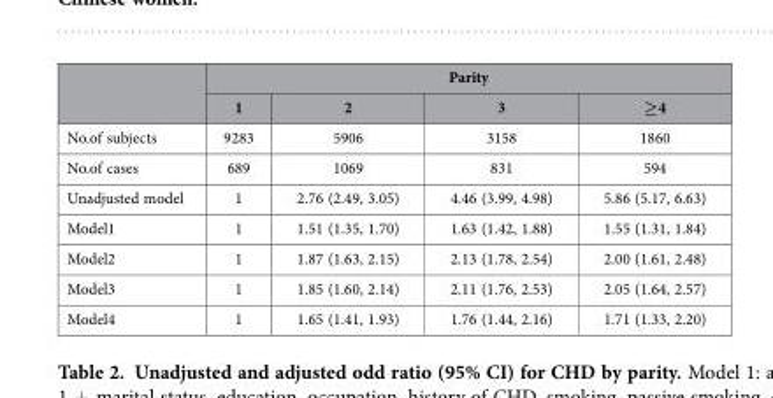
<table><thead><tr><td rowspan="2"></td><td colspan="4">Parity</td></tr><tr><td>1</td><td>2</td><td>3</td><td>≥ 4</td></tr></thead><tbody><tr><td>No.of subjects</td><td>9283</td><td>5906</td><td>3158</td><td>1860</td></tr><tr><td>No.of cases</td><td>689</td><td>1069</td><td>831</td><td>594</td></tr><tr><td>Unadjusted model</td><td>1</td><td>2.76 (2.49, 3.05)</td><td>4.46 (3.99, 4.98)</td><td>5.86 (5.17, 6.63)</td></tr><tr><td>Model1</td><td>1</td><td>1.51 (1.35, 1.70)</td><td>1.63 (1.42, 1.88)</td><td>1.55 (1.31, 1.84)</td></tr><tr><td>Model2</td><td>1</td><td>1.87 (1.63, 2.15)</td><td>2.13 (1.78, 2.54)</td><td>2.00 (1.61, 2.48)</td></tr><tr><td>Model3</td><td>1</td><td>1.85 (1.60, 2.14)</td><td>2.11 (1.76, 2.53)</td><td>2.05 (1.64, 2.57)</td></tr><tr><td>Model4</td><td>1</td><td>1.65 (1.41, 1.93)</td><td>1.76 (1.44, 2.16)</td><td>1.71 (1.33, 2.20)</td></tr></tbody></table>